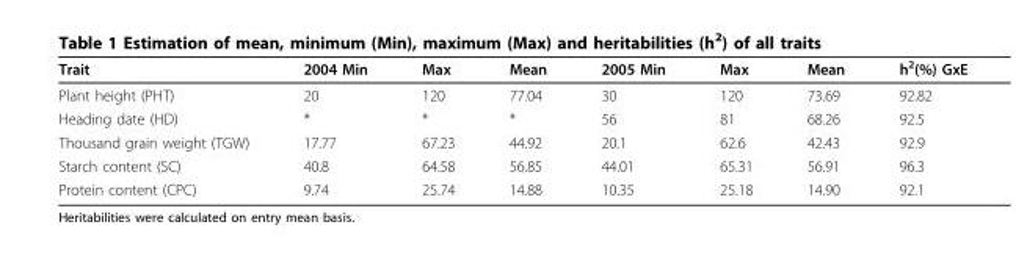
<table><thead><tr><td>Trait</td><td>2004 Min</td><td>Max</td><td>Mean</td><td>2005 Min</td><td>Max</td><td>Mean</td><td>h<sup>2</sup>(%) GxE</td></tr></thead><tbody><tr><td>Plant height (PHT)</td><td>20</td><td>120</td><td>77.04</td><td>30</td><td>120</td><td>73.69</td><td>92.82</td></tr><tr><td>Heading date (HD)</td><td>*</td><td>*</td><td>*</td><td>56</td><td>81</td><td>68.26</td><td>92.5</td></tr><tr><td>Thousand grain weight (TGW)</td><td>17.77</td><td>67.23</td><td>44.92</td><td>20.1</td><td>62.6</td><td>42.43</td><td>92.9</td></tr><tr><td>Starch content (SC)</td><td>40.8</td><td>64.58</td><td>56.85</td><td>44.01</td><td>65.31</td><td>56.91</td><td>96.3</td></tr><tr><td>Protein content (CPC)</td><td>9.74</td><td>25.74</td><td>14.88</td><td>10.35</td><td>25.18</td><td>14.90</td><td>92.1</td></tr></tbody></table>